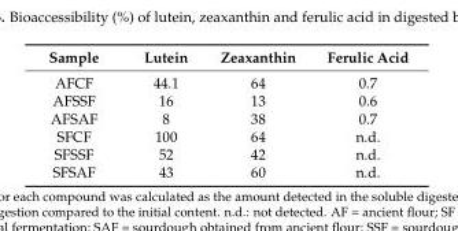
<table><thead><tr><td>Sample</td><td>Lutein</td><td>Zeaxanthin</td><td>Ferulic Acid</td></tr></thead><tbody><tr><td>AFCF</td><td>44.1</td><td>64</td><td>0.7</td></tr><tr><td>AFSSF</td><td>16</td><td>13</td><td>0.6</td></tr><tr><td>AFSAF</td><td>8</td><td>38</td><td>0.7</td></tr><tr><td>SFCF</td><td>100</td><td>64</td><td>n.d.</td></tr><tr><td>SFSSF</td><td>52</td><td>42</td><td>n.d.</td></tr><tr><td>SFSAF</td><td>43</td><td>60</td><td>n.d.</td></tr></tbody></table>